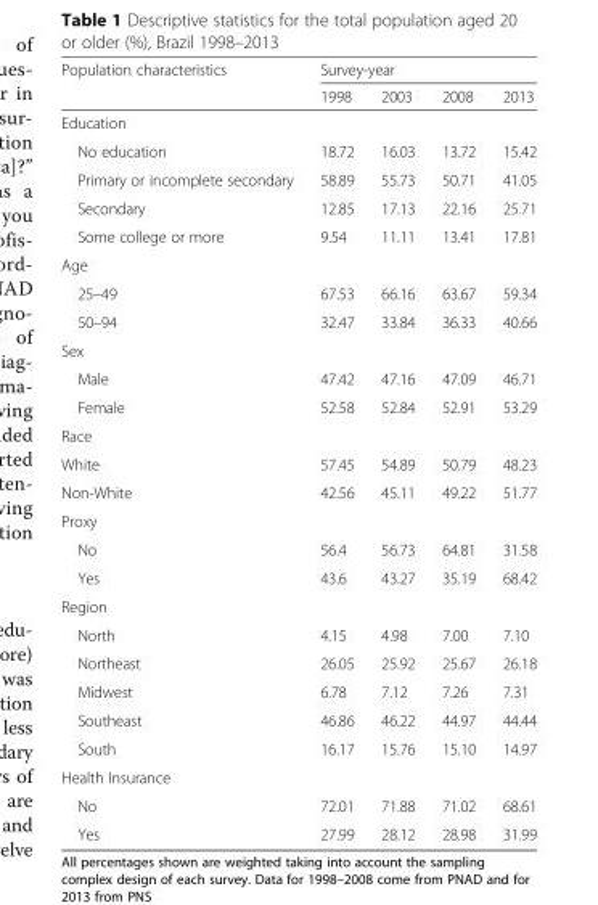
<table><thead><tr><td rowspan="2">Population characteristics</td><td colspan="4">Survey-year</td></tr><tr><td>1998</td><td>2003</td><td>2008</td><td>2013</td></tr></thead><tbody><tr><td colspan="5">Education</td></tr><tr><td>No education</td><td>18.72</td><td>16.03</td><td>13.72</td><td>15.42</td></tr><tr><td>Primary or incomplete secondary</td><td>58.89</td><td>55.73</td><td>50.71</td><td>41.05</td></tr><tr><td>Secondary</td><td>12.85</td><td>17.13</td><td>22.16</td><td>25.71</td></tr><tr><td>Some college or more</td><td>9.54</td><td>11.11</td><td>13.41</td><td>17.81</td></tr><tr><td colspan="5">Age</td></tr><tr><td>25–49</td><td>67.53</td><td>66.16</td><td>63.67</td><td>59.34</td></tr><tr><td>50–94</td><td>32.47</td><td>33.84</td><td>36.33</td><td>40.66</td></tr><tr><td colspan="5">Sex</td></tr><tr><td>Male</td><td>47.42</td><td>47.16</td><td>47.09</td><td>46.71</td></tr><tr><td>Female</td><td>52.58</td><td>52.84</td><td>52.91</td><td>53.29</td></tr><tr><td colspan="5">Race</td></tr><tr><td>White</td><td>57.45</td><td>54.89</td><td>50.79</td><td>48.23</td></tr><tr><td>Non-White</td><td>42.56</td><td>45.11</td><td>49.22</td><td>51.77</td></tr><tr><td colspan="5">Proxy</td></tr><tr><td>No</td><td>56.4</td><td>56.73</td><td>64.81</td><td>31.58</td></tr><tr><td>Yes</td><td>43.6</td><td>43.27</td><td>35.19</td><td>68.42</td></tr><tr><td colspan="5">Region</td></tr><tr><td>North</td><td>4.15</td><td>4.98</td><td>7.00</td><td>7.10</td></tr><tr><td>Northeast</td><td>26.05</td><td>25.92</td><td>25.67</td><td>26.18</td></tr><tr><td>Midwest</td><td>6.78</td><td>7.12</td><td>7.26</td><td>7.31</td></tr><tr><td>Southeast</td><td>46.86</td><td>46.22</td><td>44.97</td><td>44.44</td></tr><tr><td>South</td><td>16.17</td><td>15.76</td><td>15.10</td><td>14.97</td></tr><tr><td colspan="5">Health Insurance</td></tr><tr><td>No</td><td>72.01</td><td>71.88</td><td>71.02</td><td>68.61</td></tr><tr><td>Yes</td><td>27.99</td><td>28.12</td><td>28.98</td><td>31.99</td></tr></tbody></table>